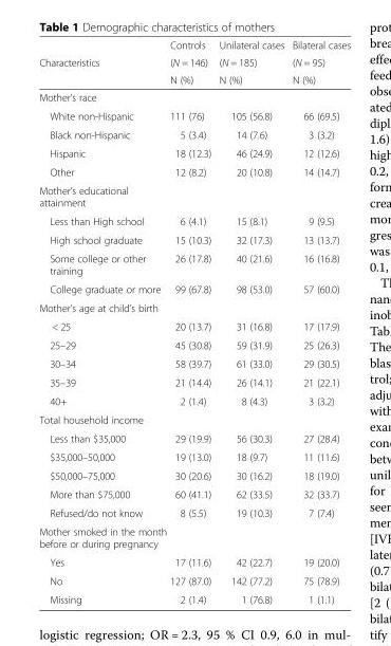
<table><thead><tr><td rowspan="3">Characteristics</td><td rowspan="3">Controls (N = 146) N (%)</td><td rowspan="3">Unilateral cases (N = 185) N (%)</td><td rowspan="3">Bilateral cases (N = 95) N (%)</td></tr><tr></tr><tr></tr></thead><tbody><tr><td colspan="4">Mother’s race</td></tr><tr><td>White non-Hispanic</td><td>111 (76)</td><td>105 (56.8)</td><td>66 (69.5)</td></tr><tr><td>Black non-Hispanic</td><td>5 (3.4)</td><td>14 (7.6)</td><td>3 (3.2)</td></tr><tr><td>Hispanic</td><td>18 (12.3)</td><td>46 (24.9)</td><td>12 (12.6)</td></tr><tr><td>Other</td><td>12 (8.2)</td><td>20 (10.8)</td><td>14 (14.7)</td></tr><tr><td colspan="4">Mother’s educational attainment</td></tr><tr><td>Less than High school</td><td>6 (4.1)</td><td>15 (8.1)</td><td>9 (9.5)</td></tr><tr><td>High school graduate</td><td>15 (10.3)</td><td>32 (17.3)</td><td>13 (13.7)</td></tr><tr><td>Some college or other training</td><td>26 (17.8)</td><td>40 (21.6)</td><td>16 (16.8)</td></tr><tr><td>College graduate or more</td><td>99 (67.8)</td><td>98 (53.0)</td><td>57 (60.0)</td></tr><tr><td colspan="4">Mother’s age at child’s birth</td></tr><tr><td>&lt; 25</td><td>20 (13.7)</td><td>31 (16.8)</td><td>17 (17.9)</td></tr><tr><td>25–29</td><td>45 (30.8)</td><td>59 (31.9)</td><td>25 (26.3)</td></tr><tr><td>30–34</td><td>58 (39.7)</td><td>61 (33.0)</td><td>29 (30.5)</td></tr><tr><td>35–39</td><td>21 (14.4)</td><td>26 (14.1)</td><td>21 (22.1)</td></tr><tr><td>40+</td><td>2 (1.4)</td><td>8 (4.3)</td><td>3 (3.2)</td></tr><tr><td colspan="4">Total household income</td></tr><tr><td>Less than $35,000</td><td>29 (19.9)</td><td>56 (30.3)</td><td>27 (28.4)</td></tr><tr><td>$35,000–50,000</td><td>19 (13.0)</td><td>18 (9.7)</td><td>11 (11.6)</td></tr><tr><td>$50,000–75,000</td><td>30 (20.6)</td><td>30 (16.2)</td><td>18 (19.0)</td></tr><tr><td>More than $75,000</td><td>60 (41.1)</td><td>62 (33.5)</td><td>32 (33.7)</td></tr><tr><td>Refused/do not know</td><td>8 (5.5)</td><td>19 (10.3)</td><td>7 (7.4)</td></tr><tr><td colspan="4">Mother smoked in the month before or during pregnancy</td></tr><tr><td>Yes</td><td>17 (11.6)</td><td>42 (22.7)</td><td>19 (20.0)</td></tr><tr><td>No</td><td>127 (87.0)</td><td>142 (77.2)</td><td>75 (78.9)</td></tr><tr><td>Missing</td><td>2 (1.4)</td><td>1 (76.8)</td><td>1 (1.1)</td></tr></tbody></table>